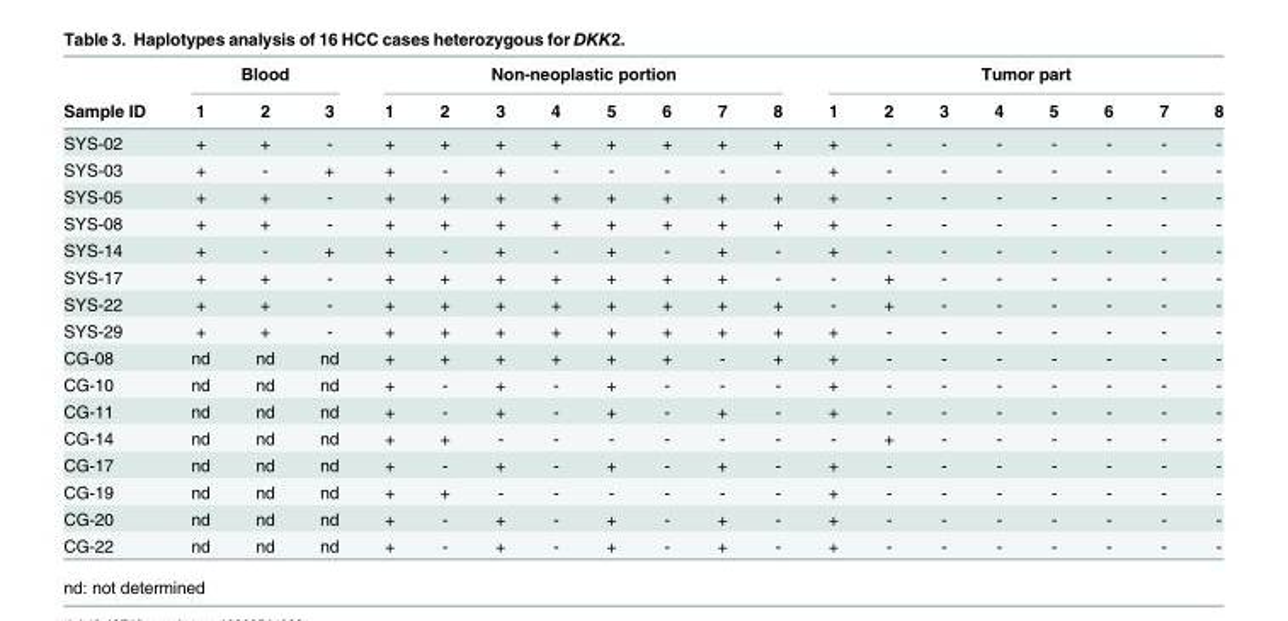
<table><thead><tr><td rowspan="2">Sample ID</td><td colspan="3">Blood</td><td colspan="8">Non-neoplastic portion</td><td colspan="8">Tumor part</td></tr><tr><td>1</td><td>2</td><td>3</td><td>1</td><td>2</td><td>3</td><td>4</td><td>5</td><td>6</td><td>7</td><td>8</td><td>1</td><td>2</td><td>3</td><td>4</td><td>5</td><td>6</td><td>7</td><td>8</td></tr></thead><tbody><tr><td>SYS-02</td><td>+</td><td>+</td><td>-</td><td>+</td><td>+</td><td>+</td><td>+</td><td>+</td><td>+</td><td>+</td><td>+</td><td>+</td><td>-</td><td>-</td><td>-</td><td>-</td><td>-</td><td>-</td><td>-</td></tr><tr><td>SYS-03</td><td>+</td><td>-</td><td>+</td><td>+</td><td>-</td><td>+</td><td>-</td><td>-</td><td>-</td><td>-</td><td>-</td><td>+</td><td>-</td><td>-</td><td>-</td><td>-</td><td>-</td><td>-</td><td>-</td></tr><tr><td>SYS-05</td><td>+</td><td>+</td><td>-</td><td>+</td><td>+</td><td>+</td><td>+</td><td>+</td><td>+</td><td>+</td><td>+</td><td>+</td><td>-</td><td>-</td><td>-</td><td>-</td><td>-</td><td>-</td><td>-</td></tr><tr><td>SYS-08</td><td>+</td><td>+</td><td>-</td><td>+</td><td>+</td><td>+</td><td>+</td><td>+</td><td>+</td><td>+</td><td>+</td><td>+</td><td>-</td><td>-</td><td>-</td><td>-</td><td>-</td><td>-</td><td>-</td></tr><tr><td>SYS-14</td><td>+</td><td>-</td><td>+</td><td>+</td><td>-</td><td>+</td><td>-</td><td>+</td><td>-</td><td>+</td><td>-</td><td>+</td><td>-</td><td>-</td><td>-</td><td>-</td><td>-</td><td>-</td><td>-</td></tr><tr><td>SYS-17</td><td>+</td><td>+</td><td>-</td><td>+</td><td>+</td><td>+</td><td>+</td><td>+</td><td>+</td><td>+</td><td>-</td><td>-</td><td>+</td><td>-</td><td>-</td><td>-</td><td>-</td><td>-</td><td>-</td></tr><tr><td>SYS-22</td><td>+</td><td>+</td><td>-</td><td>+</td><td>+</td><td>+</td><td>+</td><td>+</td><td>+</td><td>+</td><td>+</td><td>-</td><td>+</td><td>-</td><td>-</td><td>-</td><td>-</td><td>-</td><td>-</td></tr><tr><td>SYS-29</td><td>+</td><td>+</td><td>-</td><td>+</td><td>+</td><td>+</td><td>+</td><td>+</td><td>+</td><td>+</td><td>+</td><td>+</td><td>-</td><td>-</td><td>-</td><td>-</td><td>-</td><td>-</td><td>-</td></tr><tr><td>CG-08</td><td>nd</td><td>nd</td><td>nd</td><td>+</td><td>+</td><td>+</td><td>+</td><td>+</td><td>+</td><td>-</td><td>+</td><td>+</td><td>-</td><td>-</td><td>-</td><td>-</td><td>-</td><td>-</td><td>-</td></tr><tr><td>CG-10</td><td>nd</td><td>nd</td><td>nd</td><td>+</td><td>-</td><td>+</td><td>-</td><td>+</td><td>-</td><td>-</td><td>-</td><td>+</td><td>-</td><td>-</td><td>-</td><td>-</td><td>-</td><td>-</td><td>-</td></tr><tr><td>CG-11</td><td>nd</td><td>nd</td><td>nd</td><td>+</td><td>-</td><td>+</td><td>-</td><td>+</td><td>-</td><td>+</td><td>-</td><td>+</td><td>-</td><td>-</td><td>-</td><td>-</td><td>-</td><td>-</td><td>-</td></tr><tr><td>CG-14</td><td>nd</td><td>nd</td><td>nd</td><td>+</td><td>+</td><td>-</td><td>-</td><td>-</td><td>-</td><td>-</td><td>-</td><td>-</td><td>+</td><td>-</td><td>-</td><td>-</td><td>-</td><td>-</td><td>-</td></tr><tr><td>CG-17</td><td>nd</td><td>nd</td><td>nd</td><td>+</td><td>-</td><td>+</td><td>-</td><td>+</td><td>-</td><td>+</td><td>-</td><td>+</td><td>-</td><td>-</td><td>-</td><td>-</td><td>-</td><td>-</td><td>-</td></tr><tr><td>CG-19</td><td>nd</td><td>nd</td><td>nd</td><td>+</td><td>+</td><td>-</td><td>-</td><td>-</td><td>-</td><td>-</td><td>-</td><td>+</td><td>-</td><td>-</td><td>-</td><td>-</td><td>-</td><td>-</td><td>-</td></tr><tr><td>CG-20</td><td>nd</td><td>nd</td><td>nd</td><td>+</td><td>-</td><td>+</td><td>-</td><td>+</td><td>-</td><td>+</td><td>-</td><td>+</td><td>-</td><td>-</td><td>-</td><td>-</td><td>-</td><td>-</td><td>-</td></tr><tr><td>CG-22</td><td>nd</td><td>nd</td><td>nd</td><td>+</td><td>-</td><td>+</td><td>-</td><td>+</td><td>-</td><td>+</td><td>-</td><td>+</td><td>-</td><td>-</td><td>-</td><td>-</td><td>-</td><td>-</td><td>-</td></tr></tbody></table>